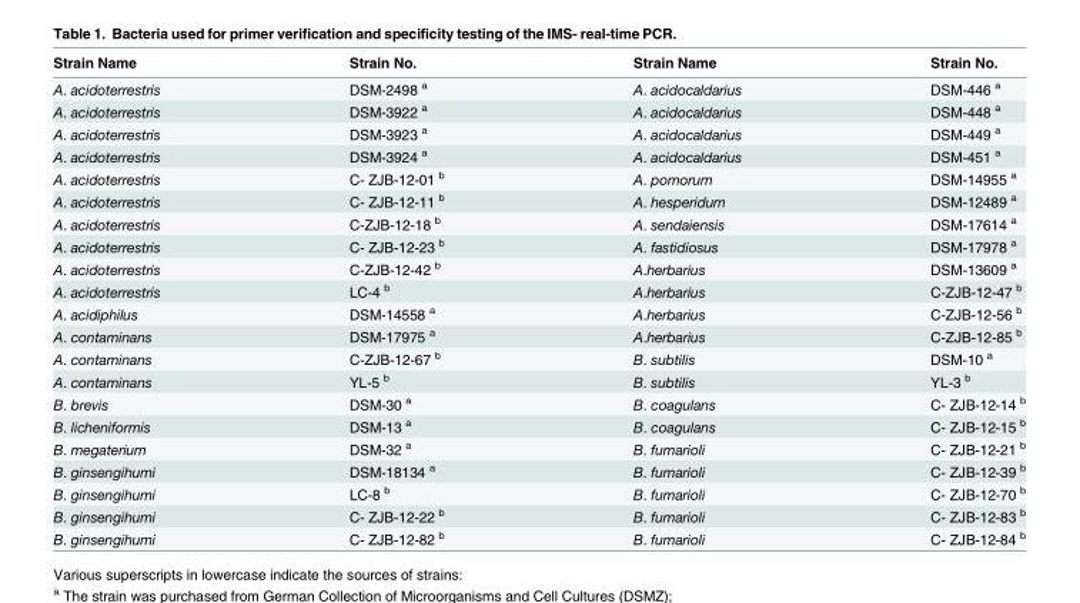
<table><thead><tr><td>Strain Name</td><td>Strain No.</td><td>Strain Name</td><td>Strain No.</td></tr></thead><tbody><tr><td>A. acidoterrestris</td><td>DSM-2498 <sup>a</sup></td><td>A. acidocaldarius</td><td>DSM-446 <sup>a</sup></td></tr><tr><td>A. acidoterrestris</td><td>DSM-3922 <sup>a</sup></td><td>A. acidocaldarius</td><td>DSM-448 <sup>a</sup></td></tr><tr><td>A. acidoterrestris</td><td>DSM-3923 <sup>a</sup></td><td>A. acidocaldarius</td><td>DSM-449 <sup>a</sup></td></tr><tr><td>A. acidoterrestris</td><td>DSM-3924 <sup>a</sup></td><td>A. acidocaldarius</td><td>DSM-451 <sup>a</sup></td></tr><tr><td>A. acidoterrestris</td><td>C- ZJB-12-01 <sup>b</sup></td><td>A. pomorum</td><td>DSM-14955 <sup>a</sup></td></tr><tr><td>A. acidoterrestris</td><td>C- ZJB-12-11 <sup>b</sup></td><td>A. hesperidum</td><td>DSM-12489 <sup>a</sup></td></tr><tr><td>A. acidoterrestris</td><td>C-ZJB-12-18 <sup>b</sup></td><td>A. sendaiensis</td><td>DSM-17614 <sup>a</sup></td></tr><tr><td>A. acidoterrestris</td><td>C- ZJB-12-23 <sup>b</sup></td><td>A. fastidiosus</td><td>DSM-17978 <sup>a</sup></td></tr><tr><td>A. acidoterrestris</td><td>C-ZJB-12-42 <sup>b</sup></td><td>A.herbarius</td><td>DSM-13609 <sup>a</sup></td></tr><tr><td>A. acidoterrestris</td><td>LC-4 <sup>b</sup></td><td>A.herbarius</td><td>C-ZJB-12-47 <sup>b</sup></td></tr><tr><td>A. acidiphilus</td><td>DSM-14558 <sup>a</sup></td><td>A.herbarius</td><td>C-ZJB-12-56 <sup>b</sup></td></tr><tr><td>A. contaminans</td><td>DSM-17975 <sup>a</sup></td><td>A.herbarius</td><td>C-ZJB-12-85 <sup>b</sup></td></tr><tr><td>A. contaminans</td><td>C-ZJB-12-67 <sup>b</sup></td><td>B. subtilis</td><td>DSM-10 <sup>a</sup></td></tr><tr><td>A. contaminans</td><td>YL-5 <sup>b</sup></td><td>B. subtilis</td><td>YL-3 <sup>b</sup></td></tr><tr><td>B. brevis</td><td>DSM-30 <sup>a</sup></td><td>B. coagulans</td><td>C- ZJB-12-14 <sup>b</sup></td></tr><tr><td>B. licheniformis</td><td>DSM-13 <sup>a</sup></td><td>B. coagulans</td><td>C- ZJB-12-15 <sup>b</sup></td></tr><tr><td>B. megaterium</td><td>DSM-32 <sup>a</sup></td><td>B. fumarioli</td><td>C- ZJB-12-21 <sup>b</sup></td></tr><tr><td>B. ginsengihumi</td><td>DSM-18134 <sup>a</sup></td><td>B. fumarioli</td><td>C- ZJB-12-39 <sup>b</sup></td></tr><tr><td>B. ginsengihumi</td><td>LC-8 <sup>b</sup></td><td>B. fumarioli</td><td>C- ZJB-12-70 <sup>b</sup></td></tr><tr><td>B. ginsengihumi</td><td>C- ZJB-12-22 <sup>b</sup></td><td>B. fumarioli</td><td>C- ZJB-12-83 <sup>b</sup></td></tr><tr><td>B. ginsengihumi</td><td>C- ZJB-12-82 <sup>b</sup></td><td>B. fumarioli</td><td>C- ZJB-12-84 <sup>b</sup></td></tr></tbody></table>